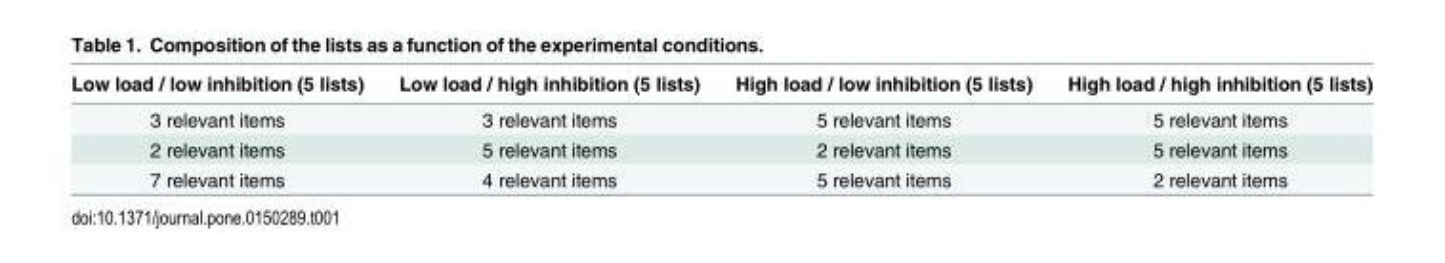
<table><thead><tr><td>Low load / low inhibition (5 lists)</td><td>Low load / high inhibition (5 lists)</td><td>High load / low inhibition (5 lists)</td><td>High load / high inhibition (5 lists)</td></tr></thead><tbody><tr><td>3 relevant items</td><td>3 relevant items</td><td>5 relevant items</td><td>5 relevant items</td></tr><tr><td>2 relevant items</td><td>5 relevant items</td><td>2 relevant items</td><td>5 relevant items</td></tr><tr><td>7 relevant items</td><td>4 relevant items</td><td>5 relevant items</td><td>2 relevant items</td></tr></tbody></table>